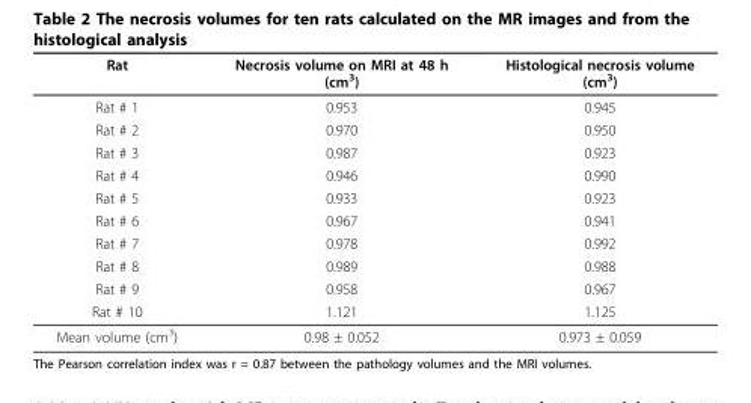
<table><thead><tr><td>Rat</td><td>Necrosis volume on MRI at 48 h (cm<sup>3</sup>)</td><td>Histological necrosis volume (cm<sup>3</sup>)</td></tr></thead><tbody><tr><td>Rat # 1</td><td>0.953</td><td>0.945</td></tr><tr><td>Rat # 2</td><td>0.970</td><td>0.950</td></tr><tr><td>Rat # 3</td><td>0.987</td><td>0.923</td></tr><tr><td>Rat # 4</td><td>0.946</td><td>0.990</td></tr><tr><td>Rat # 5</td><td>0.933</td><td>0.923</td></tr><tr><td>Rat # 6</td><td>0.967</td><td>0.941</td></tr><tr><td>Rat # 7</td><td>0.978</td><td>0.992</td></tr><tr><td>Rat # 8</td><td>0.989</td><td>0.988</td></tr><tr><td>Rat # 9</td><td>0.958</td><td>0.967</td></tr><tr><td>Rat # 10</td><td>1.121</td><td>1.125</td></tr><tr><td>Mean volume (cm<sup>3</sup>)</td><td>0.98 ± 0.052</td><td>0.973 ± 0.059</td></tr></tbody></table>